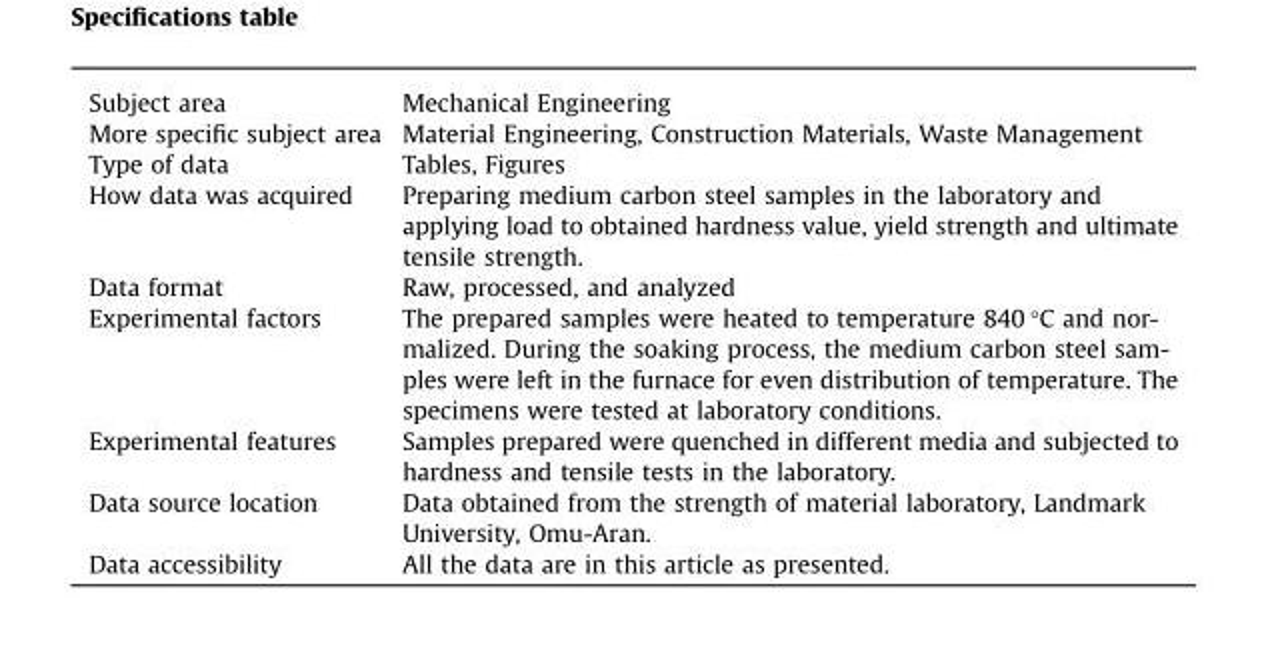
<table><tbody><tr><td>Subject area</td><td>Mechanical Engineering</td></tr><tr><td>More specific subject area</td><td>Material Engineering, Construction Materials, Waste Management</td></tr><tr><td>Type of data</td><td>Tables, Figures</td></tr><tr><td>How data was acquired</td><td>Preparing medium carbon steel samples in the laboratory and applying load to obtained hardness value, yield strength and ultimate tensile strength.</td></tr><tr><td>Data format</td><td>Raw, processed, and analyzed</td></tr><tr><td>Experimental factors</td><td>The prepared samples were heated to temperature 840 °C and nor- malized. During the soaking process, the medium carbon steel sam- ples were left in the furnace for even distribution of temperature. The specimens were tested at laboratory conditions.</td></tr><tr><td>Experimental features</td><td>Samples prepared were quenched in different media and subjected to hardness and tensile tests in the laboratory.</td></tr><tr><td>Data source location</td><td>Data obtained from the strength of material laboratory, Landmark University, Omu-Aran.</td></tr><tr><td>Data accessibility</td><td>All the data are in this article as presented.</td></tr></tbody></table>